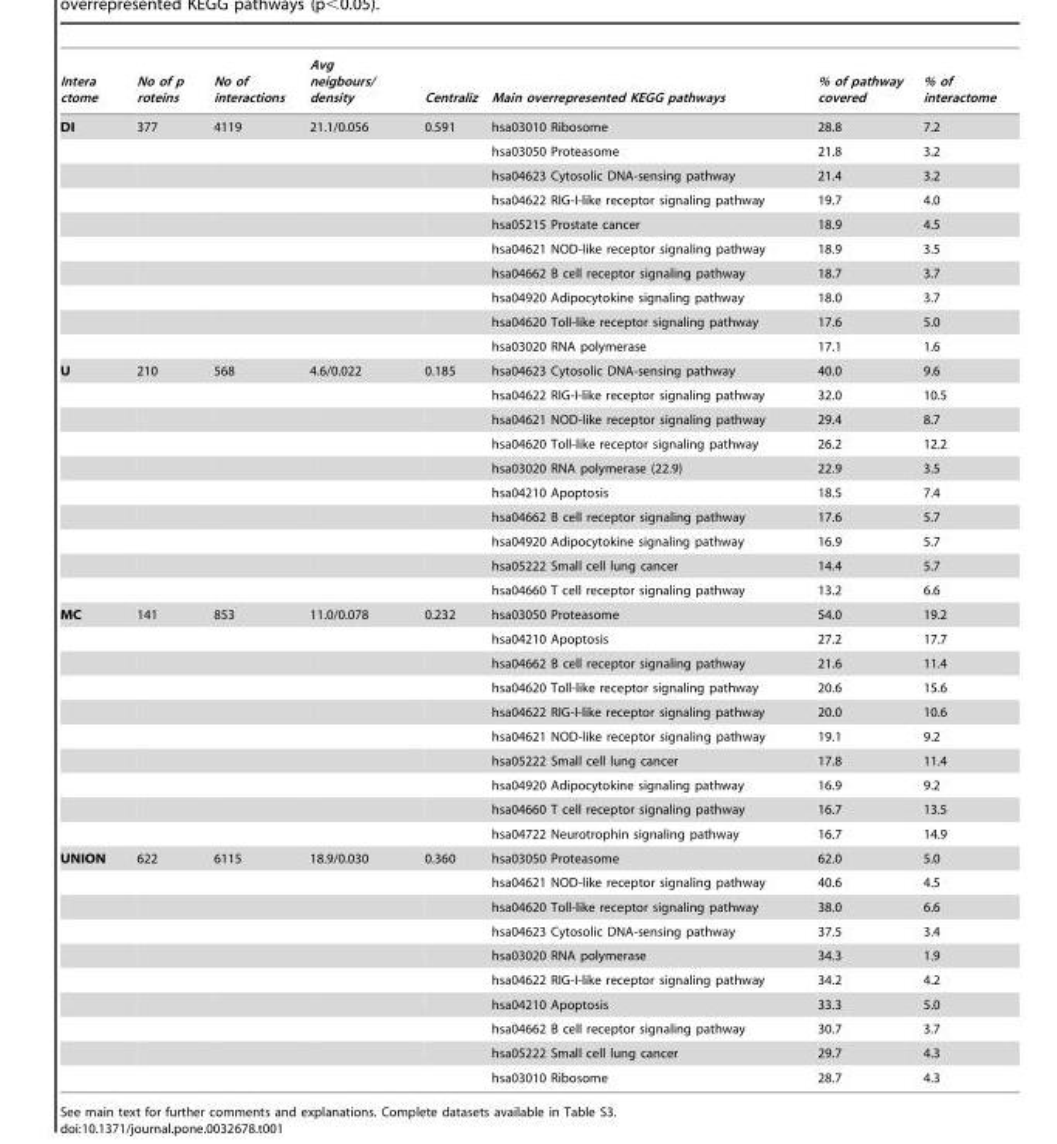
<table><thead><tr><td>Intera ctome</td><td>No of p roteins</td><td>No of interactions</td><td>Avg neigbours/ density</td><td>Centraliz</td><td>Main overrepresented KEGG pathways</td><td>% of pathway covered</td><td>% of interactome</td></tr></thead><tbody><tr><td rowspan="10">DI</td><td>377</td><td>4119</td><td>21.1/0.056</td><td>0.591</td><td>hsa03010 Ribosome</td><td>28.8</td><td>7.2</td></tr><tr><td></td><td></td><td></td><td></td><td>hsa03050 Proteasome</td><td>21.8</td><td>3.2</td></tr><tr><td></td><td></td><td></td><td></td><td>hsa04623 Cytosolic DNA-sensing pathway</td><td>21.4</td><td>3.2</td></tr><tr><td></td><td></td><td></td><td></td><td>hsa04622 RIG-I-like receptor signaling pathway</td><td>19.7</td><td>4.0</td></tr><tr><td></td><td></td><td></td><td></td><td>hsa05215 Prostate cancer</td><td>18.9</td><td>4.5</td></tr><tr><td></td><td></td><td></td><td></td><td>hsa04621 NOD-like receptor signaling pathway</td><td>18.9</td><td>3.5</td></tr><tr><td></td><td></td><td></td><td></td><td>hsa04662 B cell receptor signaling pathway</td><td>18.7</td><td>3.7</td></tr><tr><td></td><td></td><td></td><td></td><td>hsa04920 Adipocytokine signaling pathway</td><td>18.0</td><td>3.7</td></tr><tr><td></td><td></td><td></td><td></td><td>hsa04620 Toll-like receptor signaling pathway</td><td>17.6</td><td>5.0</td></tr><tr><td></td><td></td><td></td><td></td><td>hsa03020 RNA polymerase</td><td>17.1</td><td>1.6</td></tr><tr><td rowspan="10">U</td><td>210</td><td>568</td><td>4.6/0.022</td><td>0.185</td><td>hsa04623 Cytosolic DNA-sensing pathway</td><td>40.0</td><td>9.6</td></tr><tr><td></td><td></td><td></td><td></td><td>hsa04622 RIG-I-like receptor signaling pathway</td><td>32.0</td><td>10.5</td></tr><tr><td></td><td></td><td></td><td></td><td>hsa04621 NOD-like receptor signaling pathway</td><td>29.4</td><td>8.7</td></tr><tr><td></td><td></td><td></td><td></td><td>hsa04620 Toll-like receptor signaling pathway</td><td>26.2</td><td>12.2</td></tr><tr><td></td><td></td><td></td><td></td><td>hsa03020 RNA polymerase (22.9)</td><td>22.9</td><td>3.5</td></tr><tr><td></td><td></td><td></td><td></td><td>hsa04210 Apoptosis</td><td>18.5</td><td>7.4</td></tr><tr><td></td><td></td><td></td><td></td><td>hsa04662 B cell receptor signaling pathway</td><td>17.6</td><td>5.7</td></tr><tr><td></td><td></td><td></td><td></td><td>hsa04920 Adipocytokine signaling pathway</td><td>16.9</td><td>5.7</td></tr><tr><td></td><td></td><td></td><td></td><td>hsa05222 Small cell lung cancer</td><td>14.4</td><td>5.7</td></tr><tr><td></td><td></td><td></td><td></td><td>hsa04660 T cell receptor signaling pathway</td><td>13.2</td><td>6.6</td></tr><tr><td rowspan="10">MC</td><td>141</td><td>853</td><td>11.0/0.078</td><td>0.232</td><td>hsa03050 Proteasome</td><td>54.0</td><td>19.2</td></tr><tr><td></td><td></td><td></td><td></td><td>hsa04210 Apoptosis</td><td>27.2</td><td>17.7</td></tr><tr><td></td><td></td><td></td><td></td><td>hsa04662 B cell receptor signaling pathway</td><td>21.6</td><td>11.4</td></tr><tr><td></td><td></td><td></td><td></td><td>hsa04620 Toll-like receptor signaling pathway</td><td>20.6</td><td>15.6</td></tr><tr><td></td><td></td><td></td><td></td><td>hsa04622 RIG-I-like receptor signaling pathway</td><td>20.0</td><td>10.6</td></tr><tr><td></td><td></td><td></td><td></td><td>hsa04621 NOD-like receptor signaling pathway</td><td>19.1</td><td>9.2</td></tr><tr><td></td><td></td><td></td><td></td><td>hsa05222 Small cell lung cancer</td><td>17.8</td><td>11.4</td></tr><tr><td></td><td></td><td></td><td></td><td>hsa04920 Adipocytokine signaling pathway</td><td>16.9</td><td>9.2</td></tr><tr><td></td><td></td><td></td><td></td><td>hsa04660 T cell receptor signaling pathway</td><td>16.7</td><td>13.5</td></tr><tr><td></td><td></td><td></td><td></td><td>hsa04722 Neurotrophin signaling pathway</td><td>16.7</td><td>14.9</td></tr><tr><td rowspan="10">UNION</td><td>622</td><td>6115</td><td>18.9/0.030</td><td>0.360</td><td>hsa03050 Proteasome</td><td>62.0</td><td>5.0</td></tr><tr><td></td><td></td><td></td><td></td><td>hsa04621 NOD-like receptor signaling pathway</td><td>40.6</td><td>4.5</td></tr><tr><td></td><td></td><td></td><td></td><td>hsa04620 Toll-like receptor signaling pathway</td><td>38.0</td><td>6.6</td></tr><tr><td></td><td></td><td></td><td></td><td>hsa04623 Cytosolic DNA-sensing pathway</td><td>37.5</td><td>3.4</td></tr><tr><td></td><td></td><td></td><td></td><td>hsa03020 RNA polymerase</td><td>34.3</td><td>1.9</td></tr><tr><td></td><td></td><td></td><td></td><td>hsa04622 RIG-I-like receptor signaling pathway</td><td>34.2</td><td>4.2</td></tr><tr><td></td><td></td><td></td><td></td><td>hsa04210 Apoptosis</td><td>33.3</td><td>5.0</td></tr><tr><td></td><td></td><td></td><td></td><td>hsa04662 B cell receptor signaling pathway</td><td>30.7</td><td>3.7</td></tr><tr><td></td><td></td><td></td><td></td><td>hsa05222 Small cell lung cancer</td><td>29.7</td><td>4.3</td></tr><tr><td></td><td></td><td></td><td></td><td>hsa03010 Ribosome</td><td>28.7</td><td>4.3</td></tr></tbody></table>